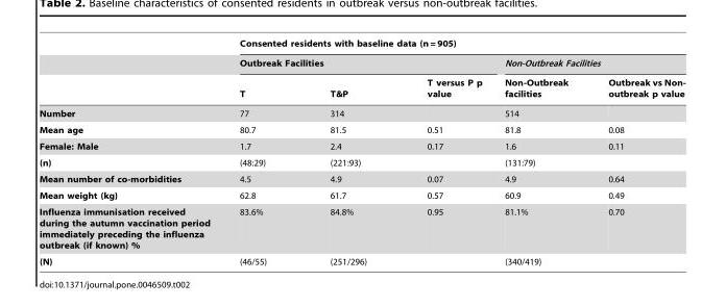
<table><thead><tr><td rowspan="3"></td><td colspan="5">Consented residents with baseline data (n = 905)</td></tr><tr><td colspan="3">Outbreak Facilities</td><td colspan="2">Non-Outbreak Facilities</td></tr><tr><td>T</td><td>T&amp;P</td><td>T versus P p value</td><td>Non-Outbreak facilities</td><td>Outbreak vs Non- outbreak p value</td></tr></thead><tbody><tr><td>Number</td><td>77</td><td>314</td><td></td><td>514</td><td></td></tr><tr><td>Mean age</td><td>80.7</td><td>81.5</td><td>0.51</td><td>81.8</td><td>0.08</td></tr><tr><td>Female: Male</td><td>1.7</td><td>2.4</td><td>0.17</td><td>1.6</td><td>0.11</td></tr><tr><td>(n)</td><td>(48:29)</td><td>(221:93)</td><td></td><td>(131:79)</td><td></td></tr><tr><td>Mean number of co-morbidities</td><td>4.5</td><td>4.9</td><td>0.07</td><td>4.9</td><td>0.64</td></tr><tr><td>Mean weight (kg)</td><td>62.8</td><td>61.7</td><td>0.57</td><td>60.9</td><td>0.49</td></tr><tr><td>Influenza immunisation received during the autumn vaccination period immediately preceding the influenza outbreak (if known) %</td><td>83.6%</td><td>84.8%</td><td>0.95</td><td>81.1%</td><td>0.70</td></tr><tr><td>(N)</td><td>(46/55)</td><td>(251/296)</td><td></td><td>(340/419)</td><td></td></tr></tbody></table>